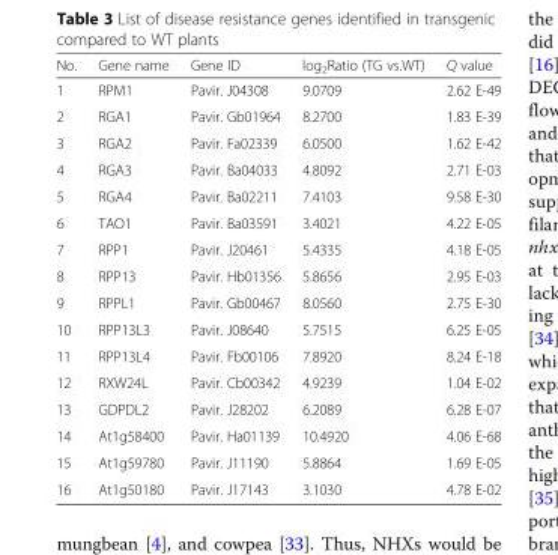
<table><thead><tr><td>No.</td><td>Gene name</td><td>Gene ID</td><td>log<sub>2</sub>Ratio (TG vs.WT)</td><td>Q value</td></tr></thead><tbody><tr><td>1</td><td>RPM1</td><td>Pavir. J04308</td><td>9.0709</td><td>2.62 E-49</td></tr><tr><td>2</td><td>RGA1</td><td>Pavir. Gb01964</td><td>8.2700</td><td>1.83 E-39</td></tr><tr><td>3</td><td>RGA2</td><td>Pavir. Fa02339</td><td>6.0500</td><td>1.62 E-42</td></tr><tr><td>4</td><td>RGA3</td><td>Pavir. Ba04033</td><td>4.8092</td><td>2.71 E-03</td></tr><tr><td>5</td><td>RGA4</td><td>Pavir. Ba02211</td><td>7.4103</td><td>9.58 E-30</td></tr><tr><td>6</td><td>TAO1</td><td>Pavir. Ba03591</td><td>3.4021</td><td>4.22 E-05</td></tr><tr><td>7</td><td>RPP1</td><td>Pavir. J20461</td><td>5.4335</td><td>4.18 E-05</td></tr><tr><td>8</td><td>RPP13</td><td>Pavir. Hb01356</td><td>5.8656</td><td>2.95 E-03</td></tr><tr><td>9</td><td>RPPL1</td><td>Pavir. Gb00467</td><td>8.0560</td><td>2.75 E-30</td></tr><tr><td>10</td><td>RPP13L3</td><td>Pavir. J08640</td><td>5.7515</td><td>6.25 E-05</td></tr><tr><td>11</td><td>RPP13L4</td><td>Pavir. Fb00106</td><td>7.8920</td><td>8.24 E-18</td></tr><tr><td>12</td><td>RXW24L</td><td>Pavir. Cb00342</td><td>4.9239</td><td>1.04 E-02</td></tr><tr><td>13</td><td>GDPDL2</td><td>Pavir. J28202</td><td>6.2089</td><td>6.28 E-07</td></tr><tr><td>14</td><td>At1g58400</td><td>Pavir. Ha01139</td><td>10.4920</td><td>4.06 E-68</td></tr><tr><td>15</td><td>At1g59780</td><td>Pavir. J11190</td><td>5.8864</td><td>1.69 E-05</td></tr><tr><td>16</td><td>At1g50180</td><td>Pavir. J17143</td><td>3.1030</td><td>4.78 E-02</td></tr></tbody></table>